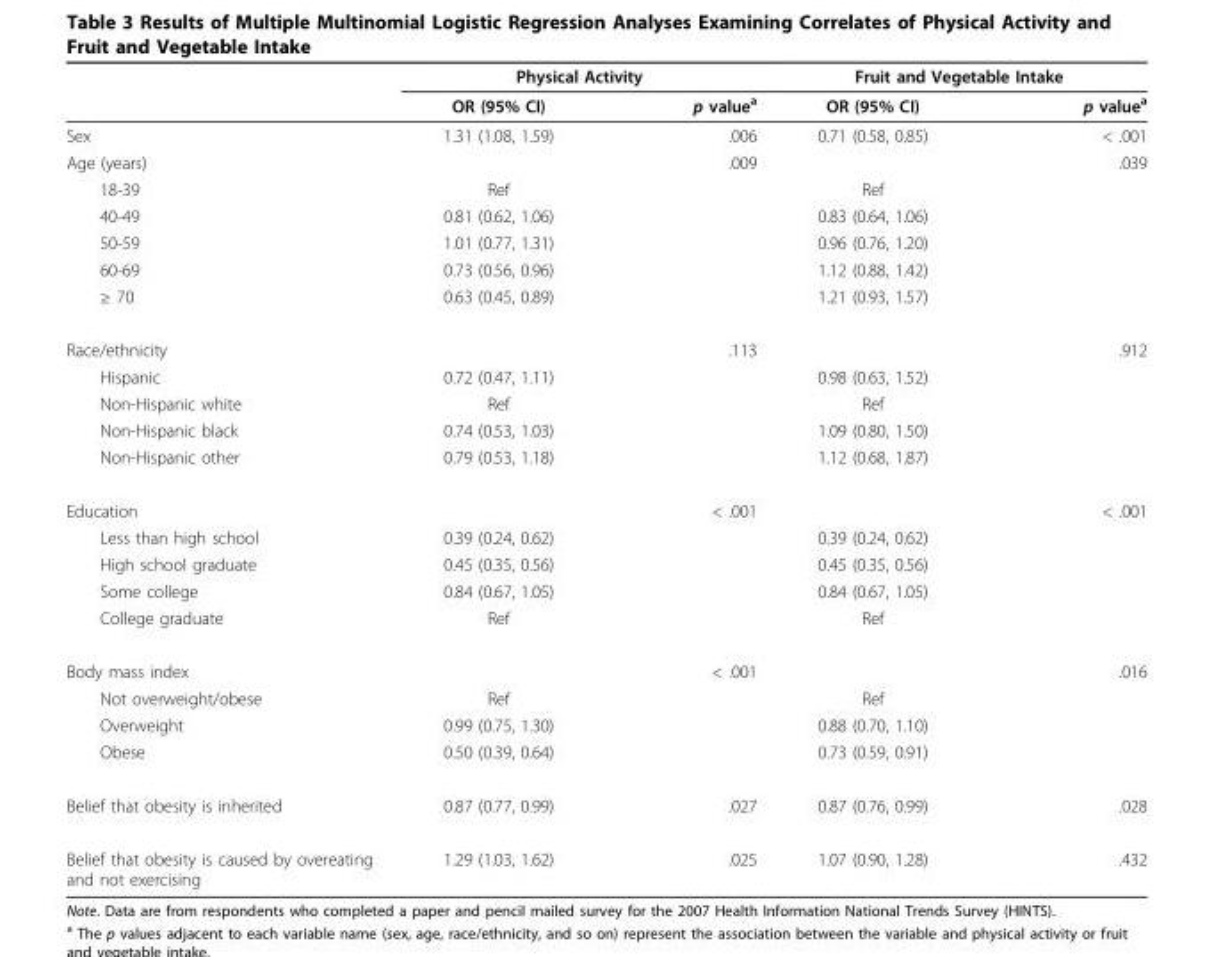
<table><thead><tr><td rowspan="2"></td><td colspan="2">Physical Activity</td><td colspan="2">Fruit and Vegetable Intake</td></tr><tr><td>OR (95% CI)</td><td>p value<sup>a</sup></td><td>OR (95% CI)</td><td>p value<sup>a</sup></td></tr></thead><tbody><tr><td>Sex</td><td>1.31 (1.08, 1.59)</td><td>.006</td><td>0.71 (0.58, 0.85)</td><td>&lt; .001</td></tr><tr><td>Age (years)</td><td></td><td>.009</td><td></td><td>.039</td></tr><tr><td>18-39</td><td>Ref</td><td></td><td>Ref</td><td></td></tr><tr><td>40-49</td><td>0.81 (0.62, 1.06)</td><td></td><td>0.83 (0.64, 1.06)</td><td></td></tr><tr><td>50-59</td><td>1.01 (0.77, 1.31)</td><td></td><td>0.96 (0.76, 1.20)</td><td></td></tr><tr><td>60-69</td><td>0.73 (0.56, 0.96)</td><td></td><td>1.12 (0.88, 1.42)</td><td></td></tr><tr><td>≥ 70</td><td>0.63 (0.45, 0.89)</td><td></td><td>1.21 (0.93, 1.57)</td><td></td></tr><tr><td>Race/ethnicity</td><td></td><td>.113</td><td></td><td>.912</td></tr><tr><td>Hispanic</td><td>0.72 (0.47, 1.11)</td><td></td><td>0.98 (0.63, 1.52)</td><td></td></tr><tr><td>Non-Hispanic white</td><td>Ref</td><td></td><td>Ref</td><td></td></tr><tr><td>Non-Hispanic black</td><td>0.74 (0.53, 1.03)</td><td></td><td>1.09 (0.80, 1.50)</td><td></td></tr><tr><td>Non-Hispanic other</td><td>0.79 (0.53, 1.18)</td><td></td><td>1.12 (0.68, 1.87)</td><td></td></tr><tr><td>Education</td><td></td><td>&lt; .001</td><td></td><td>&lt; .001</td></tr><tr><td>Less than high school</td><td>0.39 (0.24, 0.62)</td><td></td><td>0.39 (0.24, 0.62)</td><td></td></tr><tr><td>High school graduate</td><td>0.45 (0.35, 0.56)</td><td></td><td>0.45 (0.35, 0.56)</td><td></td></tr><tr><td>Some college</td><td>0.84 (0.67, 1.05)</td><td></td><td>0.84 (0.67, 1.05)</td><td></td></tr><tr><td>College graduate</td><td>Ref</td><td></td><td>Ref</td><td></td></tr><tr><td>Body mass index</td><td></td><td>&lt; .001</td><td></td><td>.016</td></tr><tr><td>Not overweight/obese</td><td>Ref</td><td></td><td>Ref</td><td></td></tr><tr><td>Overweight</td><td>0.99 (0.75, 1.30)</td><td></td><td>0.88 (0.70, 1.10)</td><td></td></tr><tr><td>Obese</td><td>0.50 (0.39, 0.64)</td><td></td><td>0.73 (0.59, 0.91)</td><td></td></tr><tr><td>Belief that obesity is inherited</td><td>0.87 (0.77, 0.99)</td><td>.027</td><td>0.87 (0.76, 0.99)</td><td>.028</td></tr><tr><td>Belief that obesity is caused by overeating and not exercising</td><td>1.29 (1.03, 1.62)</td><td>.025</td><td>1.07 (0.90, 1.28)</td><td>.432</td></tr></tbody></table>